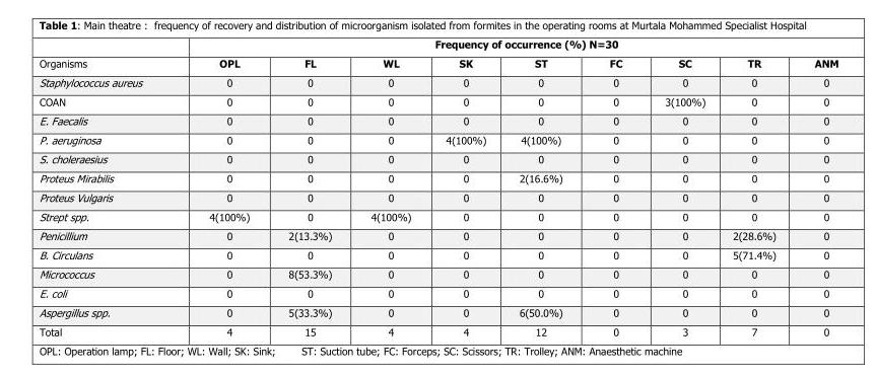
<table><thead><tr><td rowspan="2">Organisms</td><td colspan="9">Frequency of occurrence (%) N=30</td></tr><tr><td>OPL</td><td>FL</td><td>WL</td><td>SK</td><td>ST</td><td>FC</td><td>SC</td><td>TR</td><td>ANM</td></tr></thead><tbody><tr><td>Staphylococcus aureus</td><td>0</td><td>0</td><td>0</td><td>0</td><td>0</td><td>0</td><td>0</td><td>0</td><td>0</td></tr><tr><td>COAN</td><td>0</td><td>0</td><td>0</td><td>0</td><td>0</td><td>0</td><td>3(100%)</td><td>0</td><td>0</td></tr><tr><td>E. Faecalis</td><td>0</td><td>0</td><td>0</td><td>0</td><td>0</td><td>0</td><td>0</td><td>0</td><td>0</td></tr><tr><td>P. aeruginosa</td><td>0</td><td>0</td><td>0</td><td>4(100%)</td><td>4(100%)</td><td>0</td><td>0</td><td>0</td><td>0</td></tr><tr><td>S. choleraesius</td><td>0</td><td>0</td><td>0</td><td>0</td><td>0</td><td>0</td><td>0</td><td>0</td><td>0</td></tr><tr><td>Proteus Mirabilis</td><td>0</td><td>0</td><td>0</td><td>0</td><td>2(16.6%)</td><td>0</td><td>0</td><td>0</td><td>0</td></tr><tr><td>Proteus Vulgaris</td><td>0</td><td>0</td><td>0</td><td>0</td><td>0</td><td>0</td><td>0</td><td>0</td><td>0</td></tr><tr><td>Strept spp.</td><td>4(100%)</td><td>0</td><td>4(100%)</td><td>0</td><td>0</td><td>0</td><td>0</td><td>0</td><td>0</td></tr><tr><td>Penicillium</td><td>0</td><td>2(13.3%)</td><td>0</td><td>0</td><td>0</td><td>0</td><td>0</td><td>2(28.6%)</td><td>0</td></tr><tr><td>B. Circulans</td><td>0</td><td>0</td><td>0</td><td>0</td><td>0</td><td>0</td><td>0</td><td>5(71.4%)</td><td>0</td></tr><tr><td>Micrococcus</td><td>0</td><td>8(53.3%)</td><td>0</td><td>0</td><td>0</td><td>0</td><td>0</td><td>0</td><td>0</td></tr><tr><td>E. coli</td><td>0</td><td>0</td><td>0</td><td>0</td><td>0</td><td>0</td><td>0</td><td>0</td><td>0</td></tr><tr><td>Aspergillus spp.</td><td>0</td><td>5(33.3%)</td><td>0</td><td>0</td><td>6(50.0%)</td><td>0</td><td>0</td><td>0</td><td>0</td></tr><tr><td>Total</td><td>4</td><td>15</td><td>4</td><td>4</td><td>12</td><td>0</td><td>3</td><td>7</td><td>0</td></tr></tbody></table>